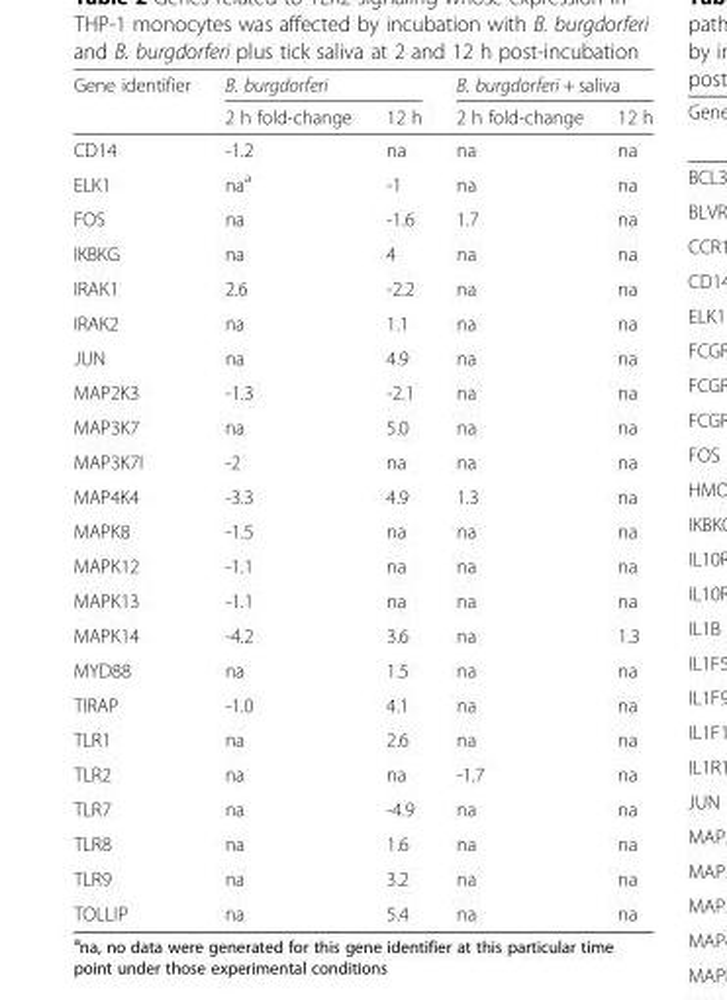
<table><thead><tr><td rowspan="2">Gene identifier</td><td colspan="2">B. burgdorferi</td><td colspan="2">B. burgdorferi + saliva</td></tr><tr><td>2 h fold-change</td><td>12 h</td><td>2 h fold-change</td><td>12 h</td></tr></thead><tbody><tr><td>CD14</td><td>-1.2</td><td>na</td><td>na</td><td>na</td></tr><tr><td>ELK1</td><td>na<sup>a</sup></td><td>-1</td><td>na</td><td>na</td></tr><tr><td>FOS</td><td>na</td><td>-1.6</td><td>1.7</td><td>na</td></tr><tr><td>IKBKG</td><td>na</td><td>4</td><td>na</td><td>na</td></tr><tr><td>IRAK1</td><td>2.6</td><td>-2.2</td><td>na</td><td>na</td></tr><tr><td>IRAK2</td><td>na</td><td>1.1</td><td>na</td><td>na</td></tr><tr><td>JUN</td><td>na</td><td>4.9</td><td>na</td><td>na</td></tr><tr><td>MAP2K3</td><td>-1.3</td><td>-2.1</td><td>na</td><td>na</td></tr><tr><td>MAP3K7</td><td>na</td><td>5.0</td><td>na</td><td>na</td></tr><tr><td>MAP3K7I</td><td>-2</td><td>na</td><td>na</td><td>na</td></tr><tr><td>MAP4K4</td><td>-3.3</td><td>4.9</td><td>1.3</td><td>na</td></tr><tr><td>MAPK8</td><td>-1.5</td><td>na</td><td>na</td><td>na</td></tr><tr><td>MAPK12</td><td>-1.1</td><td>na</td><td>na</td><td>na</td></tr><tr><td>MAPK13</td><td>-1.1</td><td>na</td><td>na</td><td>na</td></tr><tr><td>MAPK14</td><td>-4.2</td><td>3.6</td><td>na</td><td>1.3</td></tr><tr><td>MYD88</td><td>na</td><td>1.5</td><td>na</td><td>na</td></tr><tr><td>TIRAP</td><td>-1.0</td><td>4.1</td><td>na</td><td>na</td></tr><tr><td>TLR1</td><td>na</td><td>2.6</td><td>na</td><td>na</td></tr><tr><td>TLR2</td><td>na</td><td>na</td><td>-1.7</td><td>na</td></tr><tr><td>TLR7</td><td>na</td><td>-4.9</td><td>na</td><td>na</td></tr><tr><td>TLR8</td><td>na</td><td>1.6</td><td>na</td><td>na</td></tr><tr><td>TLR9</td><td>na</td><td>3.2</td><td>na</td><td>na</td></tr><tr><td>TOLLIP</td><td>na</td><td>5.4</td><td>na</td><td>na</td></tr></tbody></table>